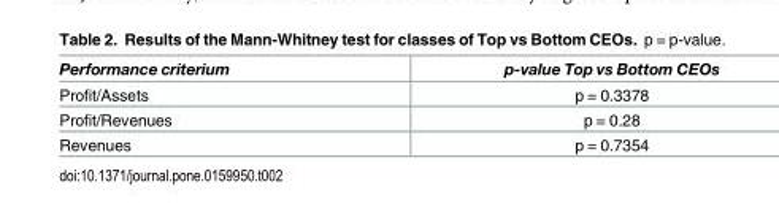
<table><thead><tr><td>Performance criterium</td><td>p-value Top vs Bottom CEOs</td></tr></thead><tbody><tr><td>Profit/Assets</td><td>p = 0.3378</td></tr><tr><td>Profit/Revenues</td><td>p = 0.28</td></tr><tr><td>Revenues</td><td>p = 0.7354</td></tr></tbody></table>